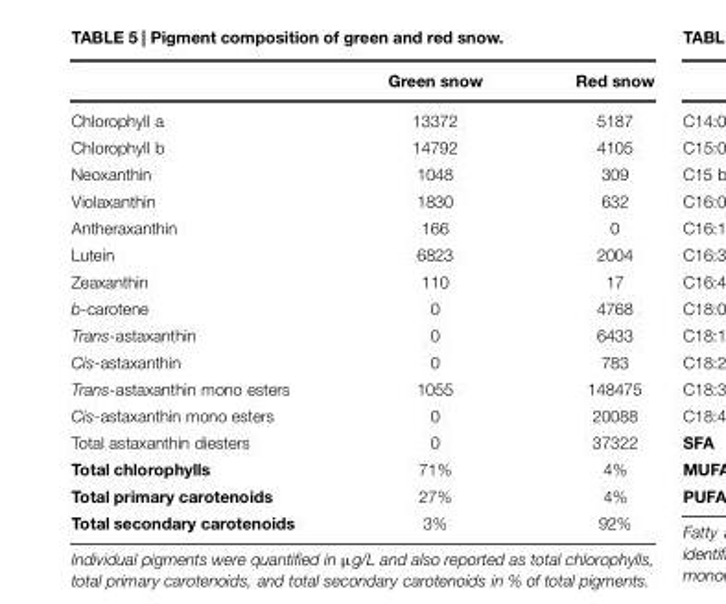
<table><thead><tr><td></td><td>Green snow</td><td>Red snow</td></tr></thead><tbody><tr><td>Chlorophyll a</td><td>13372</td><td>5187</td></tr><tr><td>Chlorophyll b</td><td>14792</td><td>4105</td></tr><tr><td>Neoxanthin</td><td>1048</td><td>309</td></tr><tr><td>Violaxanthin</td><td>1830</td><td>632</td></tr><tr><td>Antheraxanthin</td><td>166</td><td>0</td></tr><tr><td>Lutein</td><td>6823</td><td>2004</td></tr><tr><td>Zeaxanthin</td><td>110</td><td>17</td></tr><tr><td>b-carotene</td><td>0</td><td>4768</td></tr><tr><td>Trans-astaxanthin</td><td>0</td><td>6433</td></tr><tr><td>Cis-astaxanthin</td><td>0</td><td>783</td></tr><tr><td>Trans-astaxanthin mono esters</td><td>1055</td><td>148475</td></tr><tr><td>Cis-astaxanthin mono esters</td><td>0</td><td>20088</td></tr><tr><td>Total astaxanthin diesters</td><td>0</td><td>37322</td></tr><tr><td>Total chlorophylls</td><td>71%</td><td>4%</td></tr><tr><td>Total primary carotenoids</td><td>27%</td><td>4%</td></tr><tr><td>Total secondary carotenoids</td><td>3%</td><td>92%</td></tr></tbody></table>